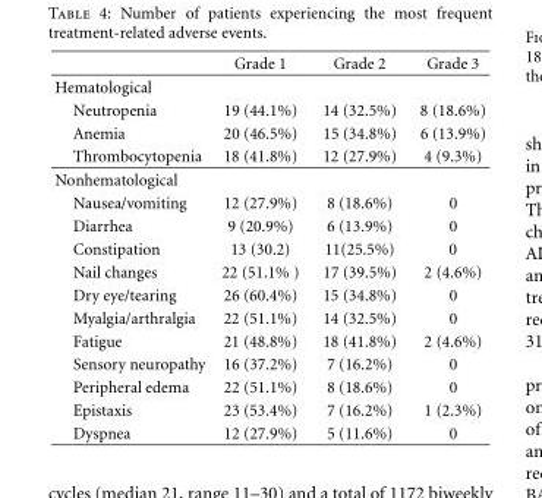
<table><thead><tr><td></td><td>Grade 1</td><td>Grade 2</td><td>Grade 3</td></tr></thead><tbody><tr><td colspan="4">Hematological</td></tr><tr><td>Neutropenia</td><td>19 (44.1%)</td><td>14 (32.5%)</td><td>8 (18.6%)</td></tr><tr><td>Anemia</td><td>20 (46.5%)</td><td>15 (34.8%)</td><td>6 (13.9%)</td></tr><tr><td>Thrombocytopenia</td><td>18 (41.8%)</td><td>12 (27.9%)</td><td>4 (9.3%)</td></tr><tr><td colspan="4">Nonhematological</td></tr><tr><td>Nausea/vomiting</td><td>12 (27.9%)</td><td>8 (18.6%)</td><td>0</td></tr><tr><td>Diarrhea</td><td>9 (20.9%)</td><td>6 (13.9%)</td><td>0</td></tr><tr><td>Constipation</td><td>13 (30.2)</td><td>11(25.5%)</td><td>0</td></tr><tr><td>Nail changes</td><td>22 (51.1% )</td><td>17 (39.5%)</td><td>2 (4.6%)</td></tr><tr><td>Dry eye/tearing</td><td>26 (60.4%)</td><td>15 (34.8%)</td><td>0</td></tr><tr><td>Myalgia/arthralgia</td><td>22 (51.1%)</td><td>14 (32.5%)</td><td>0</td></tr><tr><td>Fatigue</td><td>21 (48.8%)</td><td>18 (41.8%)</td><td>2 (4.6%)</td></tr><tr><td>Sensory neuropathy</td><td>16 (37.2%)</td><td>7 (16.2%)</td><td>0</td></tr><tr><td>Peripheral edema</td><td>22 (51.1%)</td><td>8 (18.6%)</td><td>0</td></tr><tr><td>Epistaxis</td><td>23 (53.4%)</td><td>7 (16.2%)</td><td>1 (2.3%)</td></tr><tr><td>Dyspnea</td><td>12 (27.9%)</td><td>5 (11.6%)</td><td>0</td></tr></tbody></table>